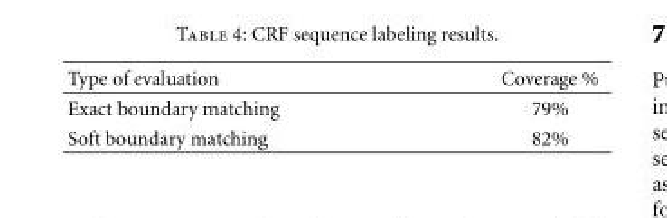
<table><thead><tr><td>Type of evaluation</td><td>Coverage %</td></tr></thead><tbody><tr><td>Exact boundary matching</td><td>79%</td></tr><tr><td>Soft boundary matching</td><td>82%</td></tr></tbody></table>